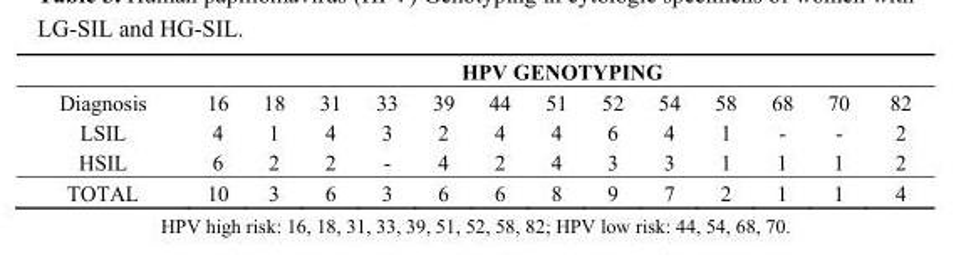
<table><thead><tr><td colspan="14">HPV GENOTYPING</td></tr><tr><td>Diagnosis</td><td>16</td><td>18</td><td>31</td><td>33</td><td>39</td><td>44</td><td>51</td><td>52</td><td>54</td><td>58</td><td>68</td><td>70</td><td>82</td></tr></thead><tbody><tr><td>LSIL</td><td>4</td><td>1</td><td>4</td><td>3</td><td>2</td><td>4</td><td>4</td><td>6</td><td>4</td><td>1</td><td>-</td><td>-</td><td>2</td></tr><tr><td>HSIL</td><td>6</td><td>2</td><td>2</td><td>-</td><td>4</td><td>2</td><td>4</td><td>3</td><td>3</td><td>1</td><td>1</td><td>1</td><td>2</td></tr><tr><td>TOTAL</td><td>10</td><td>3</td><td>6</td><td>3</td><td>6</td><td>6</td><td>8</td><td>9</td><td>7</td><td>2</td><td>1</td><td>1</td><td>4</td></tr></tbody></table>